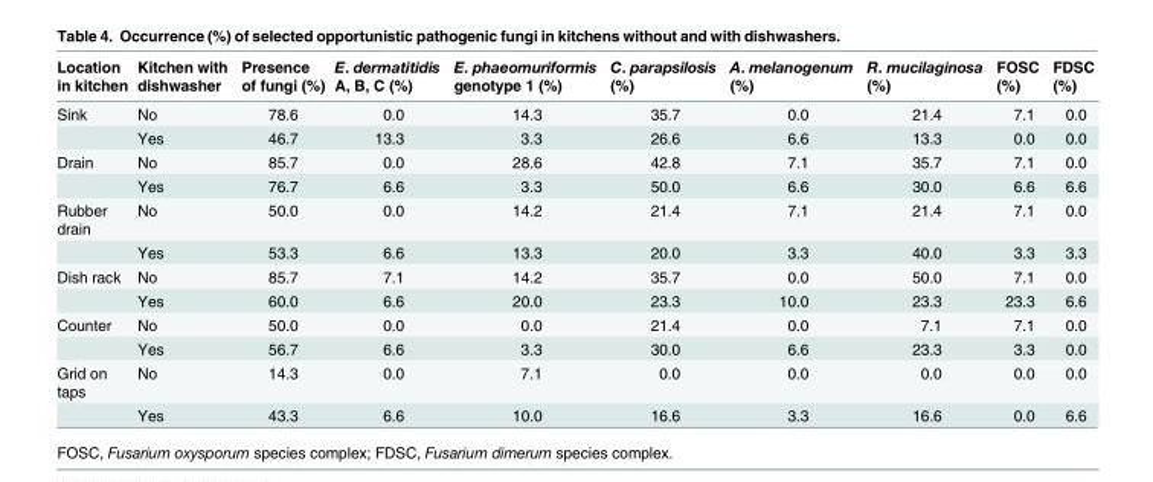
<table><thead><tr><td>Location in kitchen</td><td>Kitchen with dishwasher</td><td>Presence of fungi (%)</td><td>E. dermatitidis A, B, C (%)</td><td>E. phaeomuriformis genotype 1 (%)</td><td>C. parapsilosis (%)</td><td>A. melanogenum (%)</td><td>R. mucilaginosa (%)</td><td>FOSC (%)</td><td>FDSC (%)</td></tr></thead><tbody><tr><td rowspan="2">Sink</td><td>No</td><td>78.6</td><td>0.0</td><td>14.3</td><td>35.7</td><td>0.0</td><td>21.4</td><td>7.1</td><td>0.0</td></tr><tr><td>Yes</td><td>46.7</td><td>13.3</td><td>3.3</td><td>26.6</td><td>6.6</td><td>13.3</td><td>0.0</td><td>0.0</td></tr><tr><td rowspan="2">Drain</td><td>No</td><td>85.7</td><td>0.0</td><td>28.6</td><td>42.8</td><td>7.1</td><td>35.7</td><td>7.1</td><td>0.0</td></tr><tr><td>Yes</td><td>76.7</td><td>6.6</td><td>3.3</td><td>50.0</td><td>6.6</td><td>30.0</td><td>6.6</td><td>6.6</td></tr><tr><td rowspan="2">Rubber drain</td><td>No</td><td>50.0</td><td>0.0</td><td>14.2</td><td>21.4</td><td>7.1</td><td>21.4</td><td>7.1</td><td>0.0</td></tr><tr><td>Yes</td><td>53.3</td><td>6.6</td><td>13.3</td><td>20.0</td><td>3.3</td><td>40.0</td><td>3.3</td><td>3.3</td></tr><tr><td rowspan="2">Dish rack</td><td>No</td><td>85.7</td><td>7.1</td><td>14.2</td><td>35.7</td><td>0.0</td><td>50.0</td><td>7.1</td><td>0.0</td></tr><tr><td>Yes</td><td>60.0</td><td>6.6</td><td>20.0</td><td>23.3</td><td>10.0</td><td>23.3</td><td>23.3</td><td>6.6</td></tr><tr><td rowspan="2">Counter</td><td>No</td><td>50.0</td><td>0.0</td><td>0.0</td><td>21.4</td><td>0.0</td><td>7.1</td><td>7.1</td><td>0.0</td></tr><tr><td>Yes</td><td>56.7</td><td>6.6</td><td>3.3</td><td>30.0</td><td>6.6</td><td>23.3</td><td>3.3</td><td>0.0</td></tr><tr><td rowspan="2">Grid on taps</td><td>No</td><td>14.3</td><td>0.0</td><td>7.1</td><td>0.0</td><td>0.0</td><td>0.0</td><td>0.0</td><td>0.0</td></tr><tr><td>Yes</td><td>43.3</td><td>6.6</td><td>10.0</td><td>16.6</td><td>3.3</td><td>16.6</td><td>0.0</td><td>6.6</td></tr></tbody></table>